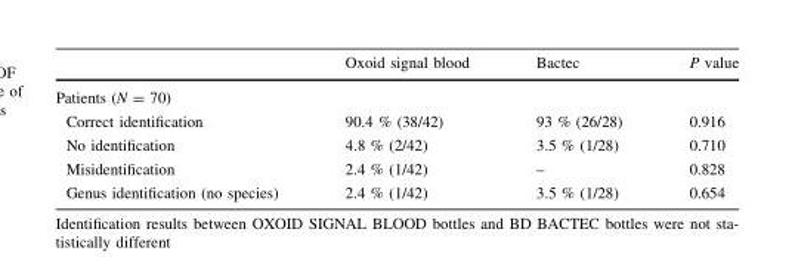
<table><thead><tr><td></td><td>Oxoid signal blood</td><td>Bactec</td><td>P value</td></tr></thead><tbody><tr><td colspan="4">Patients (N = 70)</td></tr><tr><td>Correct identification</td><td>90.4 % (38/42)</td><td>93 % (26/28)</td><td>0.916</td></tr><tr><td>No identification</td><td>4.8 % (2/42)</td><td>3.5 % (1/28)</td><td>0.710</td></tr><tr><td>Misidentification</td><td>2.4 % (1/42)</td><td>–</td><td>0.828</td></tr><tr><td>Genus identification (no species)</td><td>2.4 % (1/42)</td><td>3.5 % (1/28)</td><td>0.654</td></tr></tbody></table>